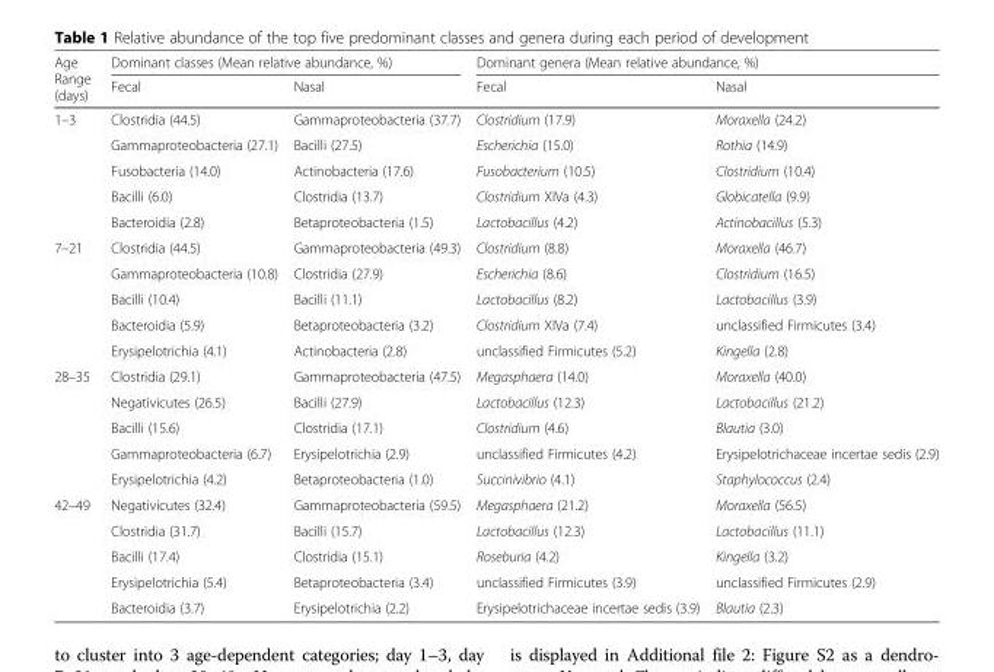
<table><thead><tr><td rowspan="2">Age Range (days)</td><td colspan="2">Dominant classes (Mean relative abundance, %)</td><td colspan="2">Dominant genera (Mean relative abundance, %)</td></tr><tr><td>Fecal</td><td>Nasal</td><td>Fecal</td><td>Nasal</td></tr></thead><tbody><tr><td rowspan="5">1–3</td><td>Clostridia (44.5)</td><td>Gammaproteobacteria (37.7)</td><td>Clostridium (17.9)</td><td>Moraxella (24.2)</td></tr><tr><td>Gammaproteobacteria (27.1)</td><td>Bacilli (27.5)</td><td>Escherichia (15.0)</td><td>Rothia (14.9)</td></tr><tr><td>Fusobacteria (14.0)</td><td>Actinobacteria (17.6)</td><td>Fusobacterium (10.5)</td><td>Clostridium (10.4)</td></tr><tr><td>Bacilli (6.0)</td><td>Clostridia (13.7)</td><td>Clostridium XIVa (4.3)</td><td>Globicatella (9.9)</td></tr><tr><td>Bacteroidia (2.8)</td><td>Betaproteobacteria (1.5)</td><td>Lactobacillus (4.2)</td><td>Actinobacillus (5.3)</td></tr><tr><td rowspan="5">7–21</td><td>Clostridia (44.5)</td><td>Gammaproteobacteria (49.3)</td><td>Clostridium (8.8)</td><td>Moraxella (46.7)</td></tr><tr><td>Gammaproteobacteria (10.8)</td><td>Clostridia (27.9)</td><td>Escherichia (8.6)</td><td>Clostridium (16.5)</td></tr><tr><td>Bacilli (10.4)</td><td>Bacilli (11.1)</td><td>Lactobacillus (8.2)</td><td>Lactobacillus (3.9)</td></tr><tr><td>Bacteroidia (5.9)</td><td>Betaproteobacteria (3.2)</td><td>Clostridium XIVa (7.4)</td><td>unclassified Firmicutes (3.4)</td></tr><tr><td>Erysipelotrichia (4.1)</td><td>Actinobacteria (2.8)</td><td>unclassified Firmicutes (5.2)</td><td>Kingella (2.8)</td></tr><tr><td rowspan="5">28–35</td><td>Clostridia (29.1)</td><td>Gammaproteobacteria (47.5)</td><td>Megasphaera (14.0)</td><td>Moraxella (40.0)</td></tr><tr><td>Negativicutes (26.5)</td><td>Bacilli (27.9)</td><td>Lactobacillus (12.3)</td><td>Lactobacillus (21.2)</td></tr><tr><td>Bacilli (15.6)</td><td>Clostridia (17.1)</td><td>Clostridium (4.6)</td><td>Blautia (3.0)</td></tr><tr><td>Gammaproteobacteria (6.7)</td><td>Erysipelotrichia (2.9)</td><td>unclassified Firmicutes (4.2)</td><td>Erysipelotrichaceae incertae sedis (2.9)</td></tr><tr><td>Erysipelotrichia (4.2)</td><td>Betaproteobacteria (1.0)</td><td>Succinivibrio (4.1)</td><td>Staphylococcus (2.4)</td></tr><tr><td rowspan="5">42–49</td><td>Negativicutes (32.4)</td><td>Gammaproteobacteria (59.5)</td><td>Megasphaera (21.2)</td><td>Moraxella (56.5)</td></tr><tr><td>Clostridia (31.7)</td><td>Bacilli (15.7)</td><td>Lactobacillus (12.3)</td><td>Lactobacillus (11.1)</td></tr><tr><td>Bacilli (17.4)</td><td>Clostridia (15.1)</td><td>Roseburia (4.2)</td><td>Kingella (3.2)</td></tr><tr><td>Erysipelotrichia (5.4)</td><td>Betaproteobacteria (3.4)</td><td>unclassified Firmicutes (3.9)</td><td>unclassified Firmicutes (2.9)</td></tr><tr><td>Bacteroidia (3.7)</td><td>Erysipelotrichia (2.2)</td><td>Erysipelotrichaceae incertae sedis (3.9)</td><td>Blautia (2.3)</td></tr></tbody></table>